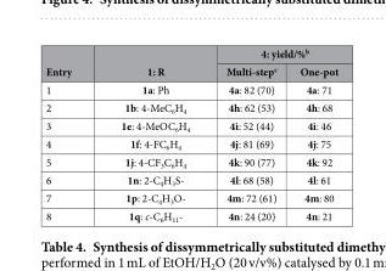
<table><thead><tr><td rowspan="2">Entry</td><td rowspan="2">1: R</td><td colspan="2">4: yield/%<sup>b</sup></td></tr><tr><td>Multi-step<sup>c</sup></td><td>One-pot</td></tr></thead><tbody><tr><td>1</td><td>1a: Ph</td><td>4a: 82 (70)</td><td>4a: 71</td></tr><tr><td>2</td><td>1b: 4-MeC<sub>6</sub>H<sub>4</sub></td><td>4h: 62 (53)</td><td>4h: 68</td></tr><tr><td>3</td><td>1e: 4-MeOC<sub>6</sub>H<sub>4</sub></td><td>4i: 52 (44)</td><td>4i: 46</td></tr><tr><td>4</td><td>1f: 4-FC<sub>6</sub>H<sub>4</sub></td><td>4j: 81 (69)</td><td>4j: 75</td></tr><tr><td>5</td><td>1j: 4-CF<sub>3</sub>C<sub>6</sub>H<sub>4</sub></td><td>4k: 90 (77)</td><td>4k: 92</td></tr><tr><td>6</td><td>1n: 2-C<sub>4</sub>H<sub>3</sub>S-</td><td>4l: 68 (58)</td><td>4l: 61</td></tr><tr><td>7</td><td>1p: 2-C<sub>4</sub>H<sub>3</sub>O-</td><td>4m: 72 (61)</td><td>4m: 80</td></tr><tr><td>8</td><td>1q: c-C<sub>6</sub>H<sub>11</sub>-</td><td>4n: 24 (20)</td><td>4n: 21</td></tr></tbody></table>